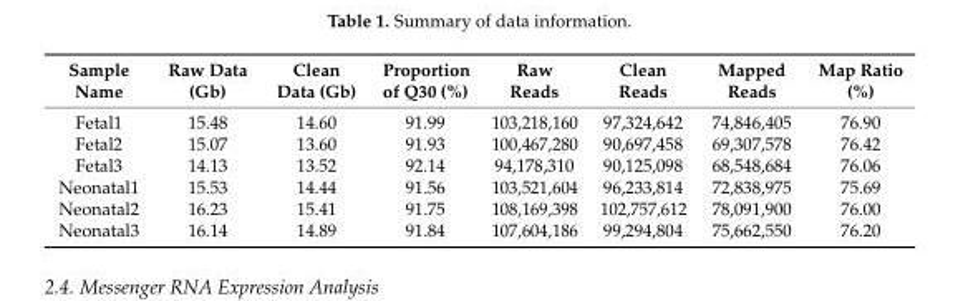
<table><thead><tr><td>Sample Name</td><td>Raw Data (Gb)</td><td>Clean Data (Gb)</td><td>Proportion of Q30 (%)</td><td>Raw Reads</td><td>Clean Reads</td><td>Mapped Reads</td><td>Map Ratio (%)</td></tr></thead><tbody><tr><td>Fetal1</td><td>15.48</td><td>14.60</td><td>91.99</td><td>103,218,160</td><td>97,324,642</td><td>74,846,405</td><td>76.90</td></tr><tr><td>Fetal2</td><td>15.07</td><td>13.60</td><td>91.93</td><td>100,467,280</td><td>90,697,458</td><td>69,307,578</td><td>76.42</td></tr><tr><td>Fetal3</td><td>14.13</td><td>13.52</td><td>92.14</td><td>94,178,310</td><td>90,125,098</td><td>68,548,684</td><td>76.06</td></tr><tr><td>Neonatal1</td><td>15.53</td><td>14.44</td><td>91.56</td><td>103,521,604</td><td>96,233,814</td><td>72,838,975</td><td>75.69</td></tr><tr><td>Neonatal2</td><td>16.23</td><td>15.41</td><td>91.75</td><td>108,169,398</td><td>102,757,612</td><td>78,091,900</td><td>76.00</td></tr><tr><td>Neonatal3</td><td>16.14</td><td>14.89</td><td>91.84</td><td>107,604,186</td><td>99,294,804</td><td>75,662,550</td><td>76.20</td></tr></tbody></table>